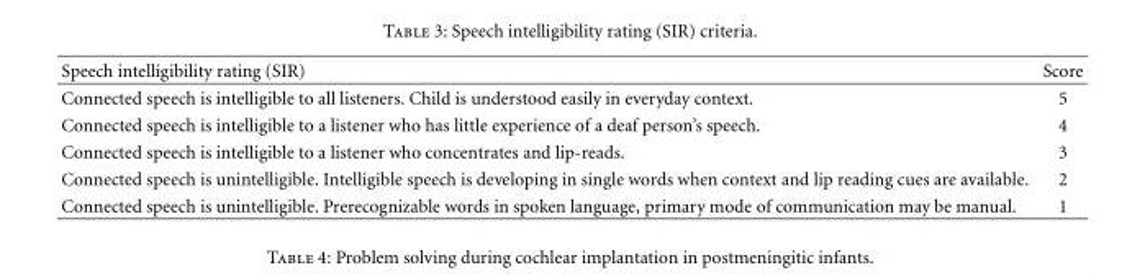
<table><thead><tr><td>Speech intelligibility rating (SIR)</td><td>Score</td></tr></thead><tbody><tr><td>Connected speech is intelligible to all listeners. Child is understood easily in everyday context.</td><td>5</td></tr><tr><td>Connected speech is intelligible to a listener who has little experience of a deaf person’s speech.</td><td>4</td></tr><tr><td>Connected speech is intelligible to a listener who concentrates and lip-reads.</td><td>3</td></tr><tr><td>Connected speech is unintelligible. Intelligible speech is developing in single words when context and lip reading cues are available.</td><td>2</td></tr><tr><td>Connected speech is unintelligible. Prerecognizable words in spoken language, primary mode of communication may be manual.</td><td>1</td></tr></tbody></table>